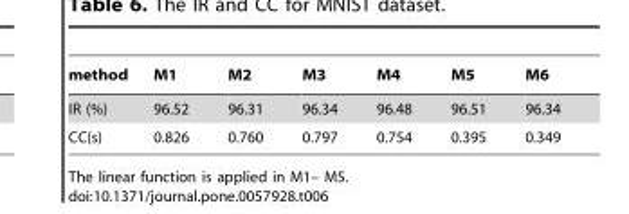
<table><thead><tr><td>method</td><td>M1</td><td>M2</td><td>M3</td><td>M4</td><td>M5</td><td>M6</td></tr></thead><tbody><tr><td>IR (%)</td><td>96.52</td><td>96.31</td><td>96.34</td><td>96.48</td><td>96.51</td><td>96.34</td></tr><tr><td>CC(s)</td><td>0.826</td><td>0.760</td><td>0.797</td><td>0.754</td><td>0.395</td><td>0.349</td></tr></tbody></table>